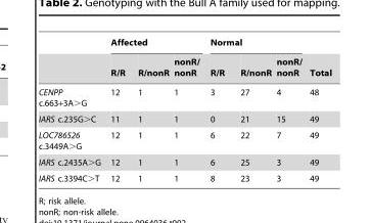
<table><thead><tr><td rowspan="2"></td><td colspan="3">Affected</td><td colspan="3">Normal</td><td rowspan="2">Total</td></tr><tr><td>R/R</td><td>R/nonR</td><td>nonR/ nonR</td><td>R/R</td><td>R/nonR</td><td>nonR/ nonR</td></tr></thead><tbody><tr><td>CENPP c.663+3A&gt;G</td><td>12</td><td>1</td><td>1</td><td>3</td><td>27</td><td>4</td><td>48</td></tr><tr><td>IARS c.235G&gt;C</td><td>11</td><td>1</td><td>1</td><td>0</td><td>21</td><td>15</td><td>49</td></tr><tr><td>LOC786526 c.3449A&gt;G</td><td>12</td><td>1</td><td>1</td><td>6</td><td>22</td><td>7</td><td>49</td></tr><tr><td>IARS c.2435A&gt;G</td><td>12</td><td>1</td><td>1</td><td>6</td><td>25</td><td>3</td><td>49</td></tr><tr><td>IARS c.3394C&gt;T</td><td>12</td><td>1</td><td>1</td><td>8</td><td>23</td><td>3</td><td>49</td></tr></tbody></table>